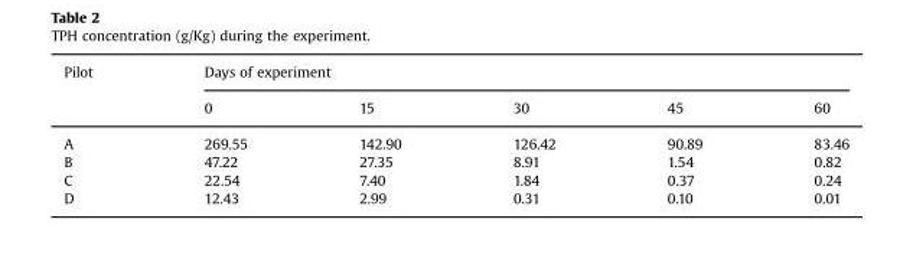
<table><thead><tr><td rowspan="2">Pilot</td><td colspan="5">Days of experiment</td></tr><tr><td>0</td><td>15</td><td>30</td><td>45</td><td>60</td></tr></thead><tbody><tr><td>A</td><td>269.55</td><td>142.90</td><td>126.42</td><td>90.89</td><td>83.46</td></tr><tr><td>B</td><td>47.22</td><td>27.35</td><td>8.91</td><td>1.54</td><td>0.82</td></tr><tr><td>C</td><td>22.54</td><td>7.40</td><td>1.84</td><td>0.37</td><td>0.24</td></tr><tr><td>D</td><td>12.43</td><td>2.99</td><td>0.31</td><td>0.10</td><td>0.01</td></tr></tbody></table>